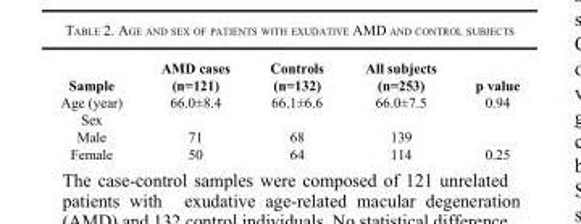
<table><thead><tr><td>Sample</td><td>AMD cases (n=121)</td><td>Controls (n=132)</td><td>All subjects (n=253)</td><td>p value</td></tr></thead><tbody><tr><td>Age (year)</td><td>66.0±8.4</td><td>66.1±6.6</td><td>66.0±7.5</td><td>0.94</td></tr><tr><td colspan="5">Sex</td></tr><tr><td>Male</td><td>71</td><td>68</td><td>139</td><td></td></tr><tr><td>Female</td><td>50</td><td>64</td><td>114</td><td>0.25</td></tr></tbody></table>